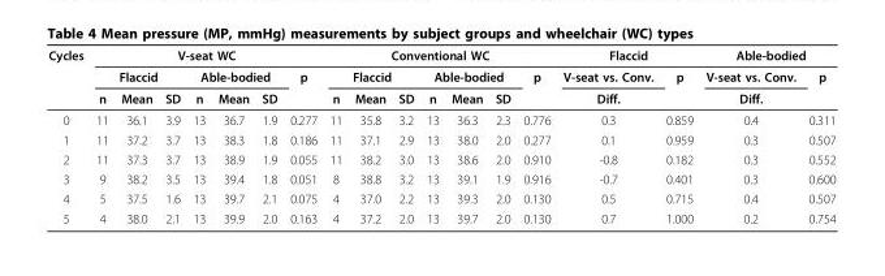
<table><thead><tr><td rowspan="3">Cycles</td><td colspan="7">V-seat WC</td><td colspan="7">Conventional WC</td><td colspan="2">Flaccid</td><td colspan="2">Able-bodied</td></tr><tr><td colspan="3">Flaccid</td><td colspan="3">Able-bodied</td><td rowspan="2">p</td><td colspan="3">Flaccid</td><td colspan="3">Able-bodied</td><td rowspan="2">p</td><td rowspan="2">V-seat vs. Conv. Diff.</td><td rowspan="2">p</td><td rowspan="2">V-seat vs. Conv. Diff.</td><td rowspan="2">p</td></tr><tr><td>n</td><td>Mean</td><td>SD</td><td>n</td><td>Mean</td><td>SD</td><td>n</td><td>Mean</td><td>SD</td><td>n</td><td>Mean</td><td>SD</td></tr></thead><tbody><tr><td>0</td><td>11</td><td>36.1</td><td>3.9</td><td>13</td><td>36.7</td><td>1.9</td><td>0.277</td><td>11</td><td>35.8</td><td>3.2</td><td>13</td><td>36.3</td><td>2.3</td><td>0.776</td><td>0.3</td><td>0.859</td><td>0.4</td><td>0.311</td></tr><tr><td>1</td><td>11</td><td>37.2</td><td>3.7</td><td>13</td><td>38.3</td><td>1.8</td><td>0.186</td><td>11</td><td>37.1</td><td>2.9</td><td>13</td><td>38.0</td><td>2.0</td><td>0.277</td><td>0.1</td><td>0.959</td><td>0.3</td><td>0.507</td></tr><tr><td>2</td><td>11</td><td>37.3</td><td>3.7</td><td>13</td><td>38.9</td><td>1.9</td><td>0.055</td><td>11</td><td>38.2</td><td>3.0</td><td>13</td><td>38.6</td><td>2.0</td><td>0.910</td><td>-0.8</td><td>0.182</td><td>0.3</td><td>0.552</td></tr><tr><td>3</td><td>9</td><td>38.2</td><td>3.5</td><td>13</td><td>39.4</td><td>1.8</td><td>0.051</td><td>8</td><td>38.8</td><td>3.2</td><td>13</td><td>39.1</td><td>1.9</td><td>0.916</td><td>-0.7</td><td>0.401</td><td>0.3</td><td>0.600</td></tr><tr><td>4</td><td>5</td><td>37.5</td><td>1.6</td><td>13</td><td>39.7</td><td>2.1</td><td>0.075</td><td>4</td><td>37.0</td><td>2.2</td><td>13</td><td>39.3</td><td>2.0</td><td>0.130</td><td>0.5</td><td>0.715</td><td>0.4</td><td>0.507</td></tr><tr><td>5</td><td>4</td><td>38.0</td><td>2.1</td><td>13</td><td>39.9</td><td>2.0</td><td>0.163</td><td>4</td><td>37.2</td><td>2.0</td><td>13</td><td>39.7</td><td>2.0</td><td>0.130</td><td>0.7</td><td>1.000</td><td>0.2</td><td>0.754</td></tr></tbody></table>